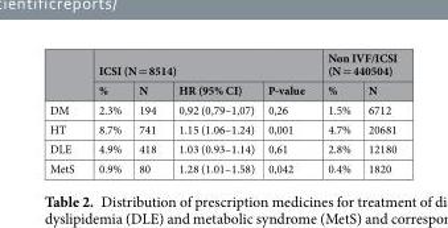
<table><thead><tr><td rowspan="2"></td><td colspan="4">ICSI (N = 8514)</td><td colspan="2">Non IVF/ICSI (N = 440504)</td></tr><tr><td>%</td><td>N</td><td>HR (95% CI)</td><td>P-value</td><td>%</td><td>N</td></tr></thead><tbody><tr><td>DM</td><td>2.3%</td><td>194</td><td>0,92 (0,79–1,07)</td><td>0,26</td><td>1.5%</td><td>6712</td></tr><tr><td>HT</td><td>8.7%</td><td>741</td><td>1.15 (1.06–1.24)</td><td>0,001</td><td>4.7%</td><td>20681</td></tr><tr><td>DLE</td><td>4.9%</td><td>418</td><td>1.03 (0.93–1.14)</td><td>0,61</td><td>2.8%</td><td>12180</td></tr><tr><td>MetS</td><td>0.9%</td><td>80</td><td>1.28 (1.01–1.58)</td><td>0,042</td><td>0.4%</td><td>1820</td></tr></tbody></table>